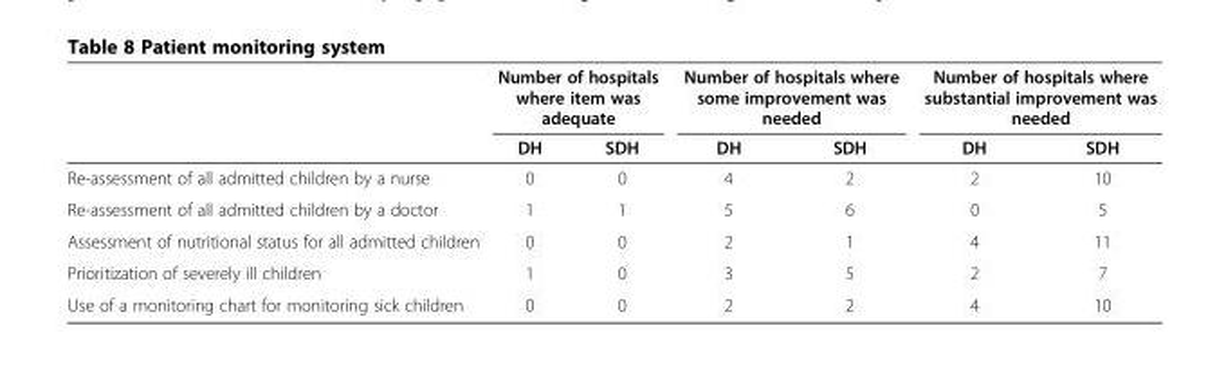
<table><thead><tr><td rowspan="2"></td><td colspan="2">Number of hospitals where item was adequate</td><td colspan="2">Number of hospitals where some improvement was needed</td><td colspan="2">Number of hospitals where substantial improvement was needed</td></tr><tr><td>DH</td><td>SDH</td><td>DH</td><td>SDH</td><td>DH</td><td>SDH</td></tr></thead><tbody><tr><td>Re-assessment of all admitted children by a nurse</td><td>0</td><td>0</td><td>4</td><td>2</td><td>2</td><td>10</td></tr><tr><td>Re-assessment of all admitted children by a doctor</td><td>1</td><td>1</td><td>5</td><td>6</td><td>0</td><td>5</td></tr><tr><td>Assessment of nutritional status for all admitted children</td><td>0</td><td>0</td><td>2</td><td>1</td><td>4</td><td>11</td></tr><tr><td>Prioritization of severely ill children</td><td>1</td><td>0</td><td>3</td><td>5</td><td>2</td><td>7</td></tr><tr><td>Use of a monitoring chart for monitoring sick children</td><td>0</td><td>0</td><td>2</td><td>2</td><td>4</td><td>10</td></tr></tbody></table>